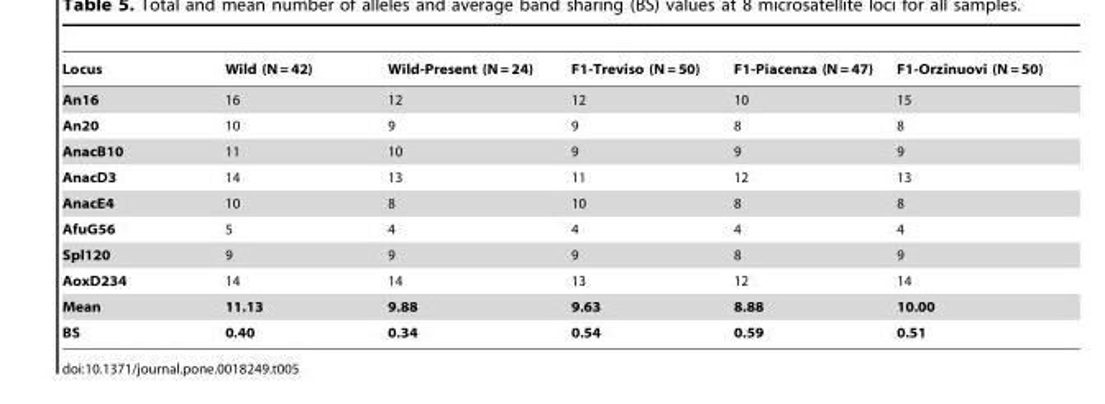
<table><thead><tr><td>Locus</td><td>Wild (N = 42)</td><td>Wild-Present (N = 24)</td><td>F1-Treviso (N = 50)</td><td>F1-Piacenza (N = 47)</td><td>F1-Orzinuovi (N = 50)</td></tr></thead><tbody><tr><td>An16</td><td>16</td><td>12</td><td>12</td><td>10</td><td>15</td></tr><tr><td>An20</td><td>10</td><td>9</td><td>9</td><td>8</td><td>8</td></tr><tr><td>AnacB10</td><td>11</td><td>10</td><td>9</td><td>9</td><td>9</td></tr><tr><td>AnacD3</td><td>14</td><td>13</td><td>11</td><td>12</td><td>13</td></tr><tr><td>AnacE4</td><td>10</td><td>8</td><td>10</td><td>8</td><td>8</td></tr><tr><td>AfuG56</td><td>5</td><td>4</td><td>4</td><td>4</td><td>4</td></tr><tr><td>Spl120</td><td>9</td><td>9</td><td>9</td><td>8</td><td>9</td></tr><tr><td>AoxD234</td><td>14</td><td>14</td><td>13</td><td>12</td><td>14</td></tr><tr><td>Mean</td><td>11.13</td><td>9.88</td><td>9.63</td><td>8.88</td><td>10.00</td></tr><tr><td>BS</td><td>0.40</td><td>0.34</td><td>0.54</td><td>0.59</td><td>0.51</td></tr></tbody></table>